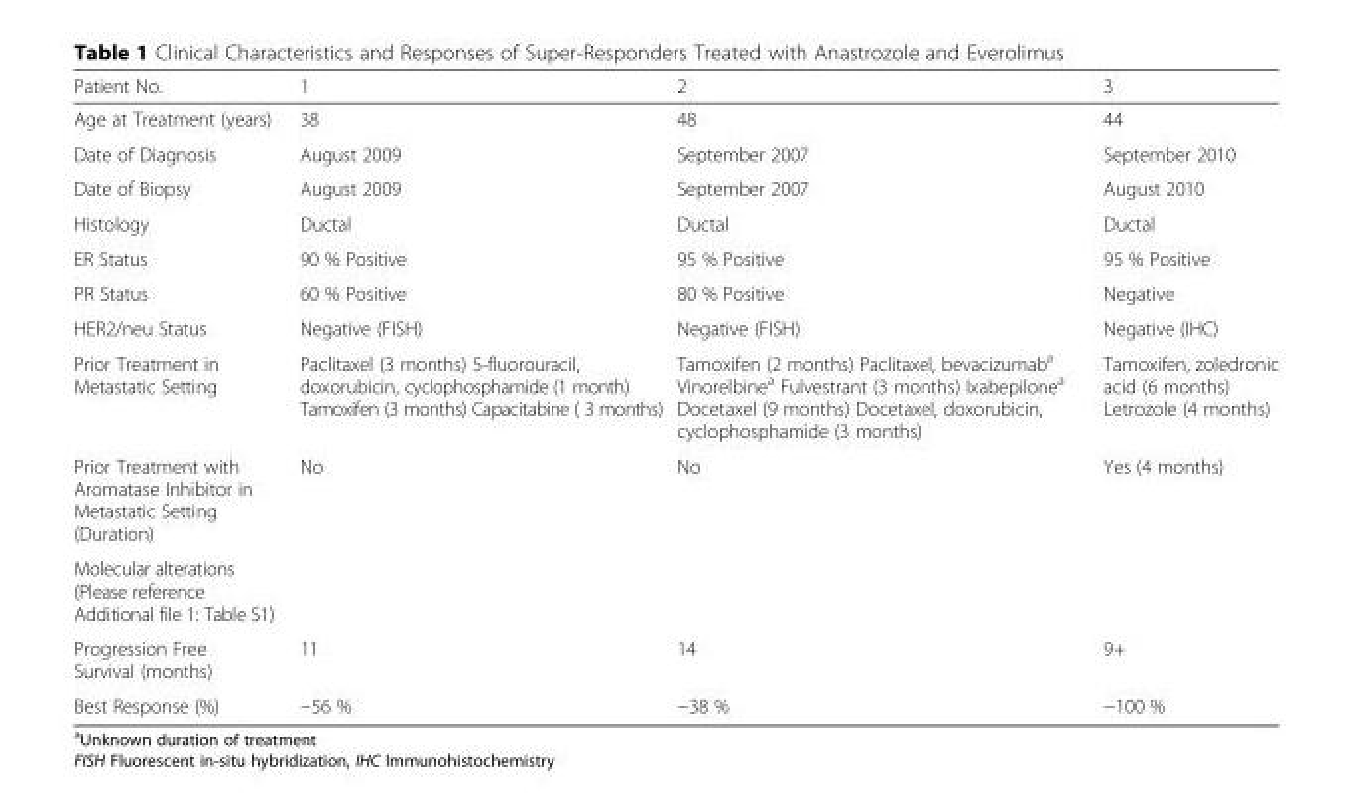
<table><thead><tr><td>Patient No.</td><td>1</td><td>2</td><td>3</td></tr></thead><tbody><tr><td>Age at Treatment (years)</td><td>38</td><td>48</td><td>44</td></tr><tr><td>Date of Diagnosis</td><td>August 2009</td><td>September 2007</td><td>September 2010</td></tr><tr><td>Date of Biopsy</td><td>August 2009</td><td>September 2007</td><td>August 2010</td></tr><tr><td>Histology</td><td>Ductal</td><td>Ductal</td><td>Ductal</td></tr><tr><td>ER Status</td><td>90 % Positive</td><td>95 % Positive</td><td>95 % Positive</td></tr><tr><td>PR Status</td><td>60 % Positive</td><td>80 % Positive</td><td>Negative</td></tr><tr><td>HER2/neu Status</td><td>Negative (FISH)</td><td>Negative (FISH)</td><td>Negative (IHC)</td></tr><tr><td>Prior Treatment in Metastatic Setting</td><td>Paclitaxel (3 months) 5-fluorouracil, doxorubicin, cyclophosphamide (1 month) Tamoxifen (3 months) Capacitabine ( 3 months)</td><td>Tamoxifen (2 months) Paclitaxel, bevacizumab<sup>a</sup> Vinorelbine<sup>a</sup> Fulvestrant (3 months) Ixabepilone<sup>a</sup> Docetaxel (9 months) Docetaxel, doxorubicin, cyclophosphamide (3 months)</td><td>Tamoxifen, zoledronic acid (6 months) Letrozole (4 months)</td></tr><tr><td>Prior Treatment with Aromatase Inhibitor in Metastatic Setting (Duration)</td><td>No</td><td>No</td><td>Yes (4 months)</td></tr><tr><td colspan="4">Molecular alterations (Please reference Additional file 1: Table S1)</td></tr><tr><td>Progression Free Survival (months)</td><td>11</td><td>14</td><td>9+</td></tr><tr><td>Best Response (%)</td><td>−56 %</td><td>−38 %</td><td>−100 %</td></tr></tbody></table>